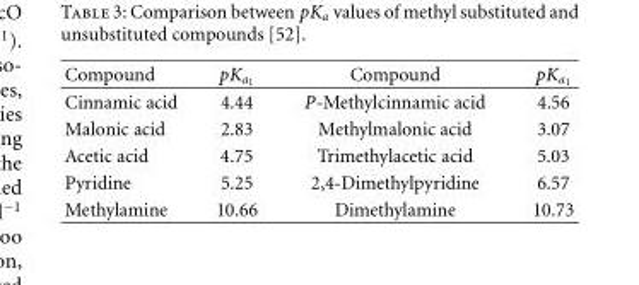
<table><thead><tr><td>Compound</td><td>pK<sub>a1</sub></td><td>Compound</td><td>pK<sub>a1</sub></td></tr></thead><tbody><tr><td>Cinnamic acid</td><td>4.44</td><td>P-Methylcinnamic acid</td><td>4.56</td></tr><tr><td>Malonic acid</td><td>2.83</td><td>Methylmalonic acid</td><td>3.07</td></tr><tr><td>Acetic acid</td><td>4.75</td><td>Trimethylacetic acid</td><td>5.03</td></tr><tr><td>Pyridine</td><td>5.25</td><td>2,4-Dimethylpyridine</td><td>6.57</td></tr><tr><td>Methylamine</td><td>10.66</td><td>Dimethylamine</td><td>10.73</td></tr></tbody></table>